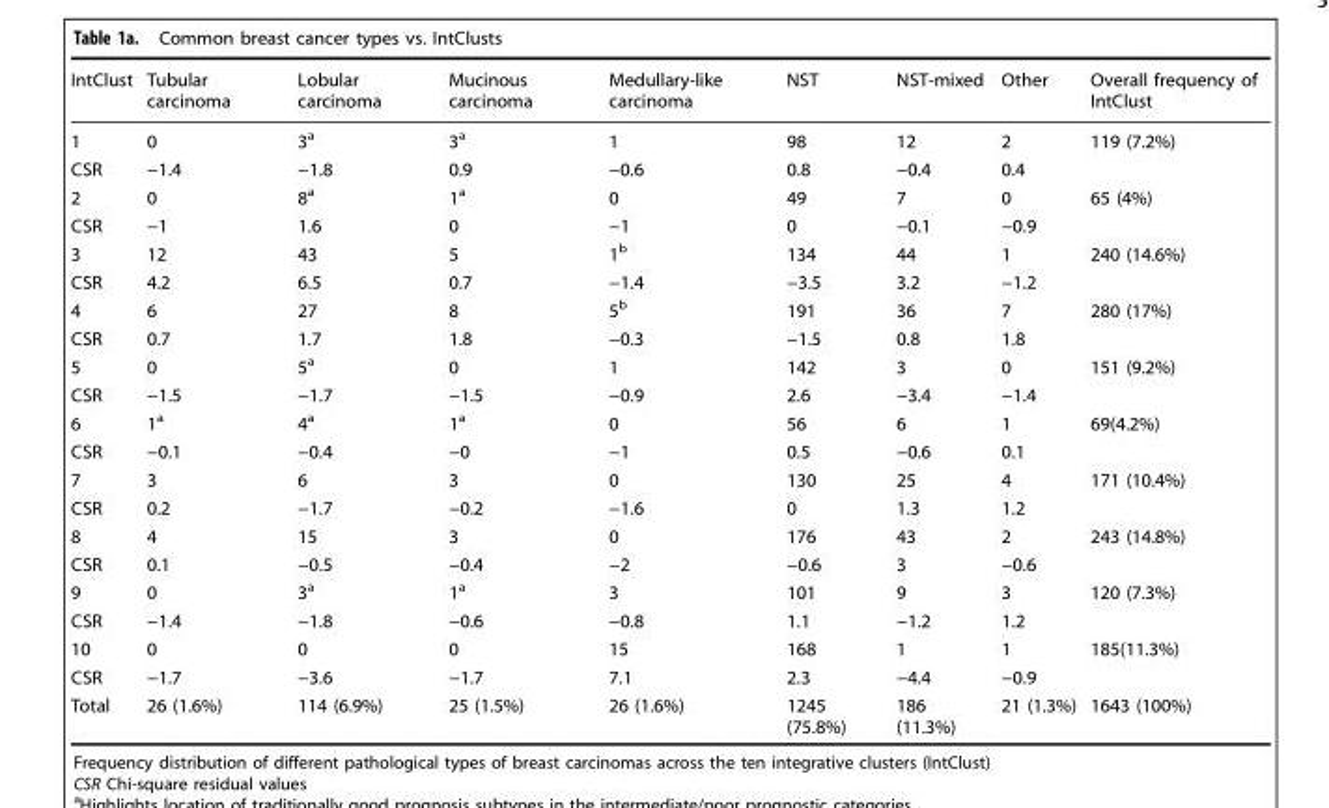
<table><thead><tr><td>IntClust</td><td>Tubular carcinoma</td><td>Lobular carcinoma</td><td>Mucinous carcinoma</td><td>Medullary-like carcinoma</td><td>NST</td><td>NST-mixed</td><td>Other</td><td>Overall frequency of IntClust</td></tr></thead><tbody><tr><td>1</td><td>0</td><td>3<sup>a</sup></td><td>3<sup>a</sup></td><td>1</td><td>98</td><td>12</td><td>2</td><td>119 (7.2%)</td></tr><tr><td>CSR</td><td>−1.4</td><td>−1.8</td><td>0.9</td><td>−0.6</td><td>0.8</td><td>−0.4</td><td>0.4</td><td></td></tr><tr><td>2</td><td>0</td><td>8<sup>a</sup></td><td>1<sup>a</sup></td><td>0</td><td>49</td><td>7</td><td>0</td><td>65 (4%)</td></tr><tr><td>CSR</td><td>−1</td><td>1.6</td><td>0</td><td>−1</td><td>0</td><td>−0.1</td><td>−0.9</td><td></td></tr><tr><td>3</td><td>12</td><td>43</td><td>5</td><td>1<sup>b</sup></td><td>134</td><td>44</td><td>1</td><td>240 (14.6%)</td></tr><tr><td>CSR</td><td>4.2</td><td>6.5</td><td>0.7</td><td>−1.4</td><td>−3.5</td><td>3.2</td><td>−1.2</td><td></td></tr><tr><td>4</td><td>6</td><td>27</td><td>8</td><td>5<sup>b</sup></td><td>191</td><td>36</td><td>7</td><td>280 (17%)</td></tr><tr><td>CSR</td><td>0.7</td><td>1.7</td><td>1.8</td><td>−0.3</td><td>−1.5</td><td>0.8</td><td>1.8</td><td></td></tr><tr><td>5</td><td>0</td><td>5<sup>a</sup></td><td>0</td><td>1</td><td>142</td><td>3</td><td>0</td><td>151 (9.2%)</td></tr><tr><td>CSR</td><td>−1.5</td><td>−1.7</td><td>−1.5</td><td>−0.9</td><td>2.6</td><td>−3.4</td><td>−1.4</td><td></td></tr><tr><td>6</td><td>1<sup>a</sup></td><td>4<sup>a</sup></td><td>1<sup>a</sup></td><td>0</td><td>56</td><td>6</td><td>1</td><td>69(4.2%)</td></tr><tr><td>CSR</td><td>−0.1</td><td>−0.4</td><td>−0</td><td>−1</td><td>0.5</td><td>−0.6</td><td>0.1</td><td></td></tr><tr><td>7</td><td>3</td><td>6</td><td>3</td><td>0</td><td>130</td><td>25</td><td>4</td><td>171 (10.4%)</td></tr><tr><td>CSR</td><td>0.2</td><td>−1.7</td><td>−0.2</td><td>−1.6</td><td>0</td><td>1.3</td><td>1.2</td><td></td></tr><tr><td>8</td><td>4</td><td>15</td><td>3</td><td>0</td><td>176</td><td>43</td><td>2</td><td>243 (14.8%)</td></tr><tr><td>CSR</td><td>0.1</td><td>−0.5</td><td>−0.4</td><td>−2</td><td>−0.6</td><td>3</td><td>−0.6</td><td></td></tr><tr><td>9</td><td>0</td><td>3<sup>a</sup></td><td>1<sup>a</sup></td><td>3</td><td>101</td><td>9</td><td>3</td><td>120 (7.3%)</td></tr><tr><td>CSR</td><td>−1.4</td><td>−1.8</td><td>−0.6</td><td>−0.8</td><td>1.1</td><td>−1.2</td><td>1.2</td><td></td></tr><tr><td>10</td><td>0</td><td>0</td><td>0</td><td>15</td><td>168</td><td>1</td><td>1</td><td>185(11.3%)</td></tr><tr><td>CSR</td><td>−1.7</td><td>−3.6</td><td>−1.7</td><td>7.1</td><td>2.3</td><td>−4.4</td><td>−0.9</td><td></td></tr><tr><td>Total</td><td>26 (1.6%)</td><td>114 (6.9%)</td><td>25 (1.5%)</td><td>26 (1.6%)</td><td>1245 (75.8%)</td><td>186 (11.3%)</td><td>21 (1.3%)</td><td>1643 (100%)</td></tr></tbody></table>